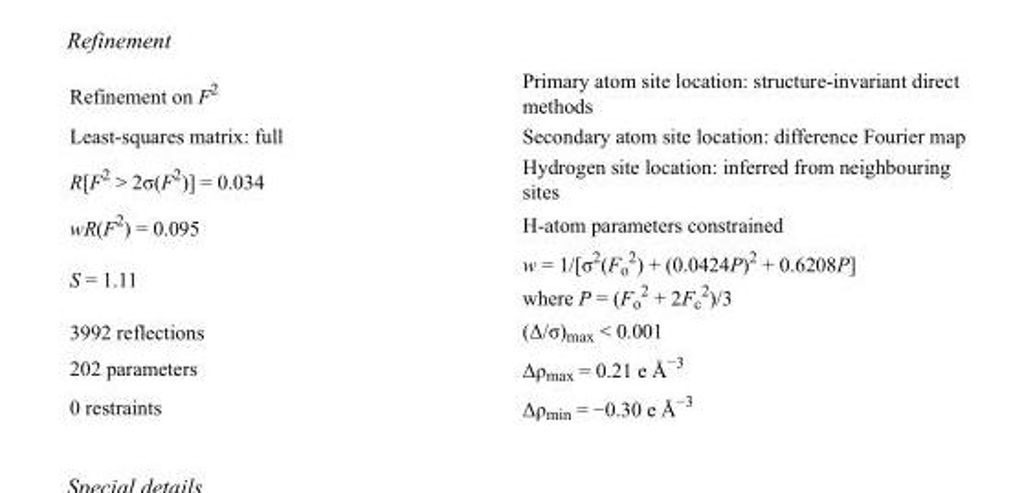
<table><tbody><tr><td>Refinement on F<sup>2</sup></td><td>Primary atom site location: structure-invariant direct methods</td></tr><tr><td>Least-squares matrix: full</td><td>Secondary atom site location: difference Fourier map</td></tr><tr><td>R[F<sup>2</sup> &gt; 2σ(F<sup>2</sup>)] = 0.034</td><td>Hydrogen site location: inferred from neighbouring sites</td></tr><tr><td>wR(F<sup>2</sup>) = 0.095</td><td>H-atom parameters constrained</td></tr><tr><td>S = 1.11</td><td>w = 1/[σ<sup>2</sup>(F<sub>o</sub> <sup>2</sup>) + (0.0424P)<sup>2</sup> + 0.6208P] where P = (F<sub>o</sub> <sup>2</sup> + 2F<sub>c</sub> <sup>2</sup>)/3</td></tr><tr><td>3992 reflections</td><td>(Δ/σ)<sub>max</sub> &lt; 0.001</td></tr><tr><td>202 parameters</td><td>Δρ<sub>max</sub> = 0.21 e Å<sup>−3</sup></td></tr><tr><td>0 restraints</td><td>Δρ<sub>min</sub> = −0.30 e Å<sup>−3</sup></td></tr></tbody></table>